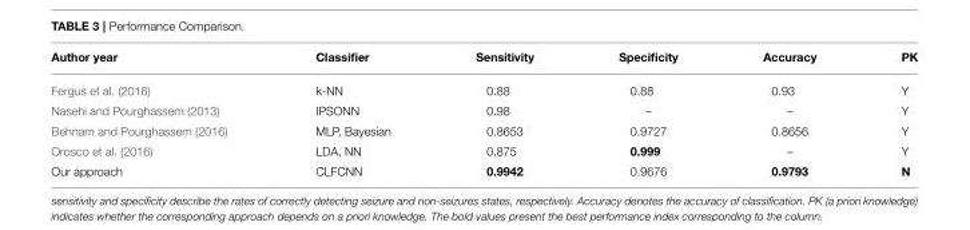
<table><thead><tr><td>Author year</td><td>Classifier</td><td>Sensitivity</td><td>Specificity</td><td>Accuracy</td><td>PK</td></tr></thead><tbody><tr><td>Fergus et al. (2016)</td><td>k-NN</td><td>0.88</td><td>0.88</td><td>0.93</td><td>Y</td></tr><tr><td>Nasehi and Pourghassem (2013)</td><td>IPSONN</td><td>0.98</td><td>–</td><td>–</td><td>Y</td></tr><tr><td>Behnam and Pourghassem (2016)</td><td>MLP, Bayesian</td><td>0.8653</td><td>0.9727</td><td>0.8656</td><td>Y</td></tr><tr><td>Orosco et al. (2016)</td><td>LDA, NN</td><td>0.875</td><td>0.999</td><td>–</td><td>Y</td></tr><tr><td>Our approach</td><td>CLFCNN</td><td>0.9942</td><td>0.9676</td><td>0.9793</td><td>N</td></tr></tbody></table>